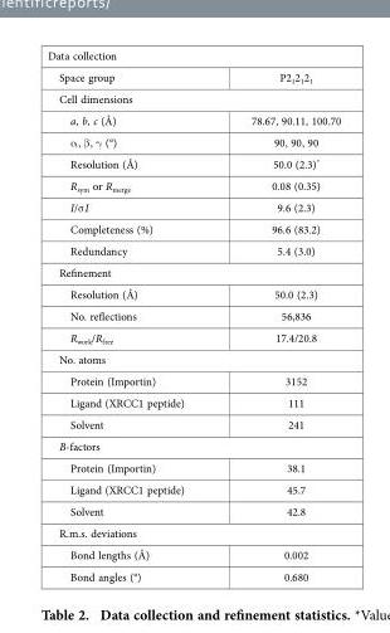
<table><tbody><tr><td colspan="2">Data collection</td></tr><tr><td>Space group</td><td>P2<sub>1</sub>2<sub>1</sub>2<sub>1</sub></td></tr><tr><td colspan="2">Cell dimensions</td></tr><tr><td>a, b, c (Å)</td><td>78.67, 90.11, 100.70</td></tr><tr><td>α , β , γ (°)</td><td>90, 90, 90</td></tr><tr><td>Resolution (Å)</td><td>50.0 (2.3)*</td></tr><tr><td>R<sub>sym</sub> or R<sub>merge</sub></td><td>0.08 (0.35)</td></tr><tr><td>I/σ I</td><td>9.6 (2.3)</td></tr><tr><td>Completeness (%)</td><td>96.6 (83.2)</td></tr><tr><td>Redundancy</td><td>5.4 (3.0)</td></tr><tr><td colspan="2">Refinement</td></tr><tr><td>Resolution (Å)</td><td>50.0 (2.3)</td></tr><tr><td>No. reflections</td><td>56,836</td></tr><tr><td>R<sub>work</sub>/R<sub>free</sub></td><td>17.4/20.8</td></tr><tr><td colspan="2">No. atoms</td></tr><tr><td>Protein (Importin)</td><td>3152</td></tr><tr><td>Ligand (XRCC1 peptide)</td><td>111</td></tr><tr><td>Solvent</td><td>241</td></tr><tr><td colspan="2">B-factors</td></tr><tr><td>Protein (Importin)</td><td>38.1</td></tr><tr><td>Ligand (XRCC1 peptide)</td><td>45.7</td></tr><tr><td>Solvent</td><td>42.8</td></tr><tr><td colspan="2">R.m.s. deviations</td></tr><tr><td>Bond lengths (Å)</td><td>0.002</td></tr><tr><td>Bond angles (°)</td><td>0.680</td></tr></tbody></table>